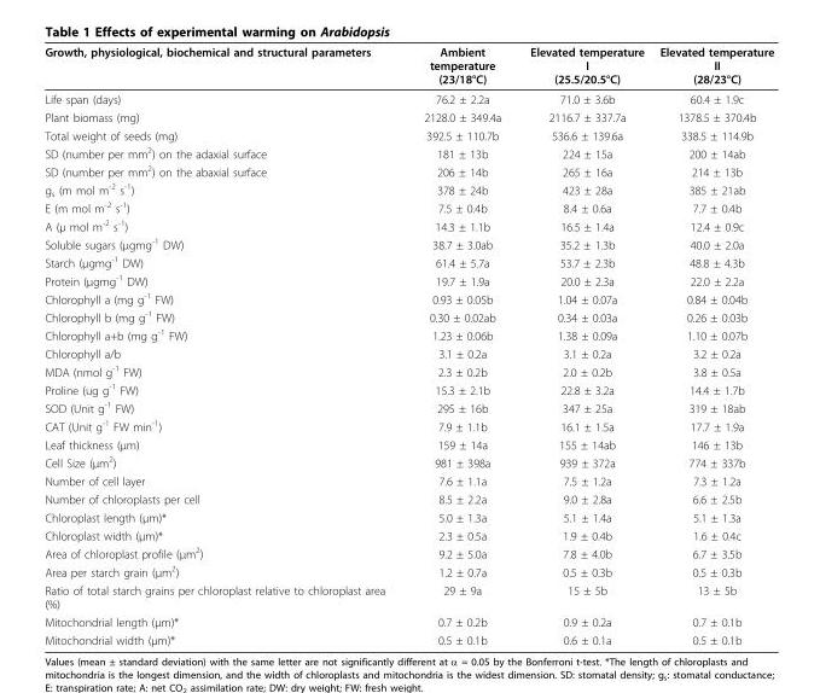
<table><thead><tr><td>Growth, physiological, biochemical and structural parameters</td><td>Ambient temperature (23/18°C)</td><td>Elevated temperature I (25.5/20.5°C)</td><td>Elevated temperature II (28/23°C)</td></tr></thead><tbody><tr><td>Life span (days)</td><td>76.2 ± 2.2a</td><td>71.0 ± 3.6b</td><td>60.4 ± 1.9c</td></tr><tr><td>Plant biomass (mg)</td><td>2128.0 ± 349.4a</td><td>2116.7 ± 337.7a</td><td>1378.5 ± 370.4b</td></tr><tr><td>Total weight of seeds (mg)</td><td>392.5 ± 110.7b</td><td>536.6 ± 139.6a</td><td>338.5 ± 114.9b</td></tr><tr><td>SD (number per mm<sup>2</sup>) on the adaxial surface</td><td>181 ± 13b</td><td>224 ± 15a</td><td>200 ± 14ab</td></tr><tr><td>SD (number per mm<sup>2</sup>) on the abaxial surface</td><td>206 ± 14b</td><td>265 ± 16a</td><td>214 ± 13b</td></tr><tr><td>g<sub>s</sub> (m mol m<sup>-2</sup> s<sup>-1</sup>)</td><td>378 ± 24b</td><td>423 ± 28a</td><td>385 ± 21ab</td></tr><tr><td>E (m mol m<sup>-2</sup> s<sup>-1</sup>)</td><td>7.5 ± 0.4b</td><td>8.4 ± 0.6a</td><td>7.7 ± 0.4b</td></tr><tr><td>A (μ mol m<sup>-2</sup> s<sup>-1</sup>)</td><td>14.3 ± 1.1b</td><td>16.5 ± 1.4a</td><td>12.4 ± 0.9c</td></tr><tr><td>Soluble sugars (μgmg<sup>-1</sup> DW)</td><td>38.7 ± 3.0ab</td><td>35.2 ± 1.3b</td><td>40.0 ± 2.0a</td></tr><tr><td>Starch (μgmg<sup>-1</sup> DW)</td><td>61.4 ± 5.7a</td><td>53.7 ± 2.3b</td><td>48.8 ± 4.3b</td></tr><tr><td>Protein (μgmg<sup>-1</sup> DW)</td><td>19.7 ± 1.9a</td><td>20.0 ± 2.3a</td><td>22.0 ± 2.2a</td></tr><tr><td>Chlorophyll a (mg g<sup>-1</sup> FW)</td><td>0.93 ± 0.05b</td><td>1.04 ± 0.07a</td><td>0.84 ± 0.04b</td></tr><tr><td>Chlorophyll b (mg g<sup>-1</sup> FW)</td><td>0.30 ± 0.02ab</td><td>0.34 ± 0.03a</td><td>0.26 ± 0.03b</td></tr><tr><td>Chlorophyll a+b (mg g<sup>-1</sup> FW)</td><td>1.23 ± 0.06b</td><td>1.38 ± 0.09a</td><td>1.10 ± 0.07b</td></tr><tr><td>Chlorophyll a/b</td><td>3.1 ± 0.2a</td><td>3.1 ± 0.2a</td><td>3.2 ± 0.2a</td></tr><tr><td>MDA (nmol g<sup>-1</sup> FW)</td><td>2.3 ± 0.2b</td><td>2.0 ± 0.2b</td><td>3.8 ± 0.5a</td></tr><tr><td>Proline (ug g<sup>-1</sup> FW)</td><td>15.3 ± 2.1b</td><td>22.8 ± 3.2a</td><td>14.4 ± 1.7b</td></tr><tr><td>SOD (Unit g<sup>-1</sup> FW)</td><td>295 ± 16b</td><td>347 ± 25a</td><td>319 ± 18ab</td></tr><tr><td>CAT (Unit g<sup>-1</sup> FW min<sup>-1</sup>)</td><td>7.9 ± 1.1b</td><td>16.1 ± 1.5a</td><td>17.7 ± 1.9a</td></tr><tr><td>Leaf thickness (μm)</td><td>159 ± 14a</td><td>155 ± 14ab</td><td>146 ± 13b</td></tr><tr><td>Cell Size (μm<sup>2</sup>)</td><td>981 ± 398a</td><td>939 ± 372a</td><td>774 ± 337b</td></tr><tr><td>Number of cell layer</td><td>7.6 ± 1.1a</td><td>7.5 ± 1.2a</td><td>7.3 ± 1.2a</td></tr><tr><td>Number of chloroplasts per cell</td><td>8.5 ± 2.2a</td><td>9.0 ± 2.8a</td><td>6.6 ± 2.5b</td></tr><tr><td>Chloroplast length (μm)*</td><td>5.0 ± 1.3a</td><td>5.1 ± 1.4a</td><td>5.1 ± 1.3a</td></tr><tr><td>Chloroplast width (μm)*</td><td>2.3 ± 0.5a</td><td>1.9 ± 0.4b</td><td>1.6 ± 0.4c</td></tr><tr><td>Area of chloroplast profile (μm<sup>2</sup>)</td><td>9.2 ± 5.0a</td><td>7.8 ± 4.0b</td><td>6.7 ± 3.5b</td></tr><tr><td>Area per starch grain (μm<sup>2</sup>)</td><td>1.2 ± 0.7a</td><td>0.5 ± 0.3b</td><td>0.5 ± 0.3b</td></tr><tr><td>Ratio of total starch grains per chloroplast relative to chloroplast area (%)</td><td>29 ± 9a</td><td>15 ± 5b</td><td>13 ± 5b</td></tr><tr><td>Mitochondrial length (μm)*</td><td>0.7 ± 0.2b</td><td>0.9 ± 0.2a</td><td>0.7 ± 0.1b</td></tr><tr><td>Mitochondrial width (μm)*</td><td>0.5 ± 0.1b</td><td>0.6 ± 0.1a</td><td>0.5 ± 0.1b</td></tr></tbody></table>